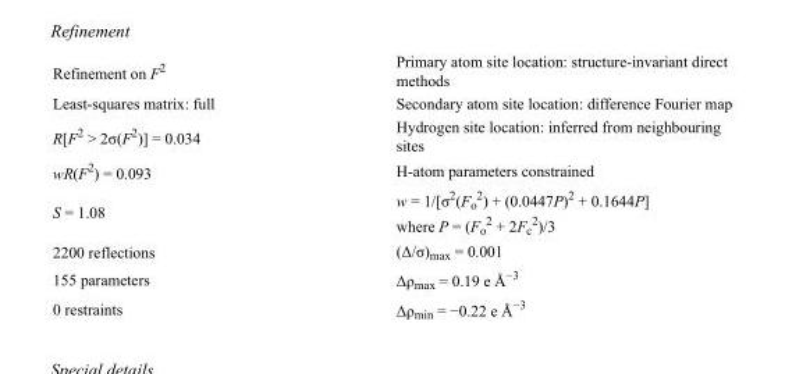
<table><tbody><tr><td>Refinement on F<sup>2</sup></td><td>Primary atom site location: structure-invariant direct methods</td></tr><tr><td>Least-squares matrix: full</td><td>Secondary atom site location: difference Fourier map</td></tr><tr><td>R[F<sup>2</sup> &gt; 2σ(F<sup>2</sup>)] = 0.034</td><td>Hydrogen site location: inferred from neighbouring sites</td></tr><tr><td>wR(F<sup>2</sup>) = 0.093</td><td>H-atom parameters constrained</td></tr><tr><td>S = 1.08</td><td>w = 1/[σ<sup>2</sup>(F<sub>o</sub> <sup>2</sup>) + (0.0447P)<sup>2</sup> + 0.1644P] where P = (F<sub>o</sub> <sup>2</sup> + 2F<sub>c</sub> <sup>2</sup>)/3</td></tr><tr><td>2200 reflections</td><td>(Δ/σ)<sub>max</sub> = 0.001</td></tr><tr><td>155 parameters</td><td>Δρ<sub>max</sub> = 0.19 e Å<sup>−3</sup></td></tr><tr><td>0 restraints</td><td>Δρ<sub>min</sub> = −0.22 e Å<sup>−3</sup></td></tr></tbody></table>